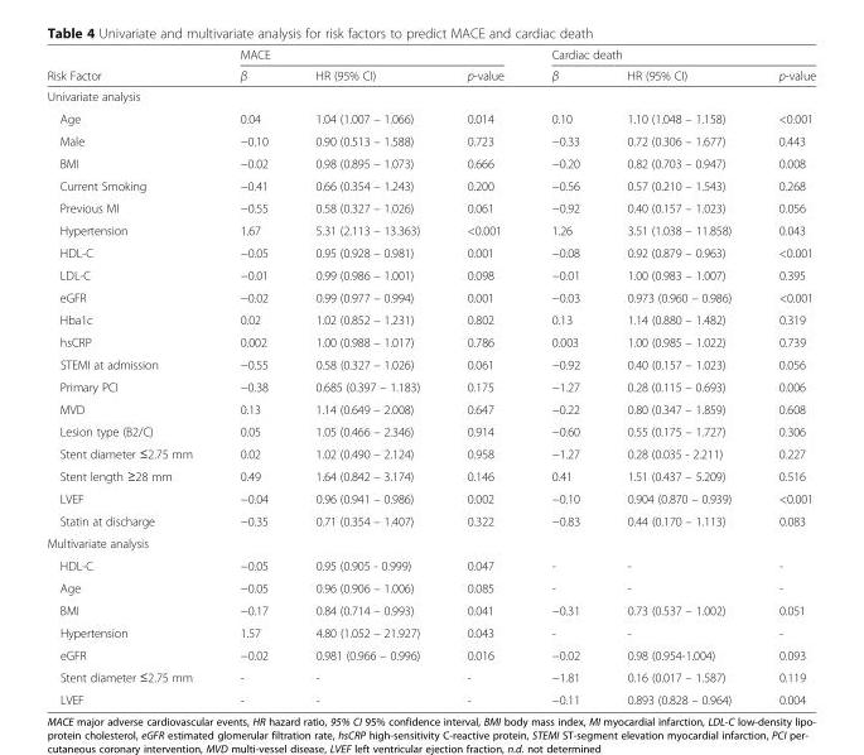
<table><thead><tr><td rowspan="2">Risk Factor</td><td colspan="3">MACE</td><td colspan="3">Cardiac death</td></tr><tr><td>β</td><td>HR (95% CI)</td><td>p-value</td><td>β</td><td>HR (95% CI)</td><td>p-value</td></tr></thead><tbody><tr><td colspan="7">Univariate analysis</td></tr><tr><td>Age</td><td>0.04</td><td>1.04 (1.007 – 1.066)</td><td>0.014</td><td>0.10</td><td>1.10 (1.048 – 1.158)</td><td>&lt;0.001</td></tr><tr><td>Male</td><td>−0.10</td><td>0.90 (0.513 – 1.588)</td><td>0.723</td><td>−0.33</td><td>0.72 (0.306 – 1.677)</td><td>0.443</td></tr><tr><td>BMI</td><td>−0.02</td><td>0.98 (0.895 – 1.073)</td><td>0.666</td><td>−0.20</td><td>0.82 (0.703 – 0.947)</td><td>0.008</td></tr><tr><td>Current Smoking</td><td>−0.41</td><td>0.66 (0.354 – 1.243)</td><td>0.200</td><td>−0.56</td><td>0.57 (0.210 – 1.543)</td><td>0.268</td></tr><tr><td>Previous MI</td><td>−0.55</td><td>0.58 (0.327 – 1.026)</td><td>0.061</td><td>−0.92</td><td>0.40 (0.157 – 1.023)</td><td>0.056</td></tr><tr><td>Hypertension</td><td>1.67</td><td>5.31 (2.113 – 13.363)</td><td>&lt;0.001</td><td>1.26</td><td>3.51 (1.038 – 11.858)</td><td>0.043</td></tr><tr><td>HDL-C</td><td>−0.05</td><td>0.95 (0.928 – 0.981)</td><td>0.001</td><td>−0.08</td><td>0.92 (0.879 – 0.963)</td><td>&lt;0.001</td></tr><tr><td>LDL-C</td><td>−0.01</td><td>0.99 (0.986 – 1.001)</td><td>0.098</td><td>−0.01</td><td>1.00 (0.983 – 1.007)</td><td>0.395</td></tr><tr><td>eGFR</td><td>−0.02</td><td>0.99 (0.977 – 0.994)</td><td>0.001</td><td>−0.03</td><td>0.973 (0.960 – 0.986)</td><td>&lt;0.001</td></tr><tr><td>Hba1c</td><td>0.02</td><td>1.02 (0.852 – 1.231)</td><td>0.802</td><td>0.13</td><td>1.14 (0.880 – 1.482)</td><td>0.319</td></tr><tr><td>hsCRP</td><td>0.002</td><td>1.00 (0.988 – 1.017)</td><td>0.786</td><td>0.003</td><td>1.00 (0.985 – 1.022)</td><td>0.739</td></tr><tr><td>STEMI at admission</td><td>−0.55</td><td>0.58 (0.327 – 1.026)</td><td>0.061</td><td>−0.92</td><td>0.40 (0.157 – 1.023)</td><td>0.056</td></tr><tr><td>Primary PCI</td><td>−0.38</td><td>0.685 (0.397 – 1.183)</td><td>0.175</td><td>−1.27</td><td>0.28 (0.115 – 0.693)</td><td>0.006</td></tr><tr><td>MVD</td><td>0.13</td><td>1.14 (0.649 – 2.008)</td><td>0.647</td><td>−0.22</td><td>0.80 (0.347 – 1.859)</td><td>0.608</td></tr><tr><td>Lesion type (B2/C)</td><td>0.05</td><td>1.05 (0.466 – 2.346)</td><td>0.914</td><td>−0.60</td><td>0.55 (0.175 – 1.727)</td><td>0.306</td></tr><tr><td>Stent diameter ≤2.75 mm</td><td>0.02</td><td>1.02 (0.490 – 2.124)</td><td>0.958</td><td>−1.27</td><td>0.28 (0.035 - 2.211)</td><td>0.227</td></tr><tr><td>Stent length ≥28 mm</td><td>0.49</td><td>1.64 (0.842 – 3.174)</td><td>0.146</td><td>0.41</td><td>1.51 (0.437 – 5.209)</td><td>0.516</td></tr><tr><td>LVEF</td><td>−0.04</td><td>0.96 (0.941 – 0.986)</td><td>0.002</td><td>−0.10</td><td>0.904 (0.870 – 0.939)</td><td>&lt;0.001</td></tr><tr><td>Statin at discharge</td><td>−0.35</td><td>0.71 (0.354 – 1.407)</td><td>0.322</td><td>−0.83</td><td>0.44 (0.170 – 1.113)</td><td>0.083</td></tr><tr><td colspan="7">Multivariate analysis</td></tr><tr><td>HDL-C</td><td>−0.05</td><td>0.95 (0.905 - 0.999)</td><td>0.047</td><td>-</td><td>-</td><td>-</td></tr><tr><td>Age</td><td>−0.05</td><td>0.96 (0.906 – 1.006)</td><td>0.085</td><td>-</td><td>-</td><td>-</td></tr><tr><td>BMI</td><td>−0.17</td><td>0.84 (0.714 – 0.993)</td><td>0.041</td><td>−0.31</td><td>0.73 (0.537 – 1.002)</td><td>0.051</td></tr><tr><td>Hypertension</td><td>1.57</td><td>4.80 (1.052 – 21.927)</td><td>0.043</td><td>-</td><td>-</td><td>-</td></tr><tr><td>eGFR</td><td>−0.02</td><td>0.981 (0.966 – 0.996)</td><td>0.016</td><td>−0.02</td><td>0.98 (0.954-1.004)</td><td>0.093</td></tr><tr><td>Stent diameter ≤2.75 mm</td><td>-</td><td>-</td><td>-</td><td>−1.81</td><td>0.16 (0.017 – 1.587)</td><td>0.119</td></tr><tr><td>LVEF</td><td>-</td><td>-</td><td>-</td><td>−0.11</td><td>0.893 (0.828 – 0.964)</td><td>0.004</td></tr></tbody></table>